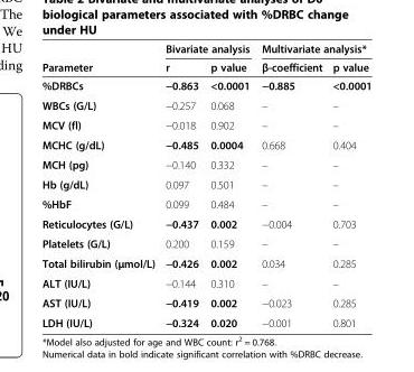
<table><thead><tr><td rowspan="2">Parameter</td><td colspan="2">Bivariate analysis</td><td colspan="2">Multivariate analysis*</td></tr><tr><td>r</td><td>p value</td><td>β-coefficient</td><td>p value</td></tr></thead><tbody><tr><td>%DRBCs</td><td>−0.863</td><td>&lt;0.0001</td><td>−0.885</td><td>&lt;0.0001</td></tr><tr><td>WBCs (G/L)</td><td>−0.257</td><td>0.068</td><td>–</td><td>–</td></tr><tr><td>MCV (fl)</td><td>−0.018</td><td>0.902</td><td>–</td><td>–</td></tr><tr><td>MCHC (g/dL)</td><td>−0.485</td><td>0.0004</td><td>0.668</td><td>0.404</td></tr><tr><td>MCH (pg)</td><td>−0.140</td><td>0.332</td><td>–</td><td>–</td></tr><tr><td>Hb (g/dL)</td><td>0.097</td><td>0.501</td><td>–</td><td>–</td></tr><tr><td>%HbF</td><td>0.099</td><td>0.484</td><td>–</td><td>–</td></tr><tr><td>Reticulocytes (G/L)</td><td>−0.437</td><td>0.002</td><td>−0.004</td><td>0.703</td></tr><tr><td>Platelets (G/L)</td><td>0.200</td><td>0.159</td><td>–</td><td>–</td></tr><tr><td>Total bilirubin (μmol/L)</td><td>−0.426</td><td>0.002</td><td>0.034</td><td>0.285</td></tr><tr><td>ALT (IU/L)</td><td>−0.144</td><td>0.310</td><td>–</td><td>–</td></tr><tr><td>AST (IU/L)</td><td>−0.419</td><td>0.002</td><td>−0.023</td><td>0.285</td></tr><tr><td>LDH (IU/L)</td><td>−0.324</td><td>0.020</td><td>−0.001</td><td>0.801</td></tr></tbody></table>